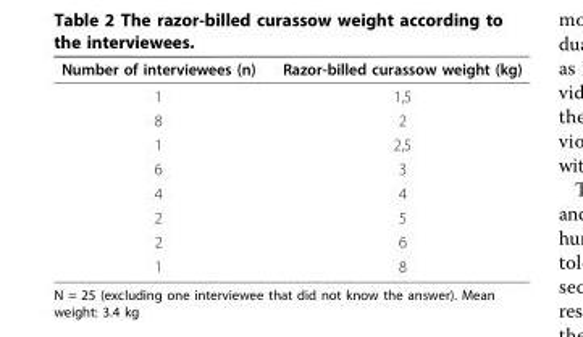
<table><thead><tr><td>Number of interviewees (n)</td><td>Razor-billed curassow weight (kg)</td></tr></thead><tbody><tr><td>1</td><td>1,5</td></tr><tr><td>8</td><td>2</td></tr><tr><td>1</td><td>2,5</td></tr><tr><td>6</td><td>3</td></tr><tr><td>4</td><td>4</td></tr><tr><td>2</td><td>5</td></tr><tr><td>2</td><td>6</td></tr><tr><td>1</td><td>8</td></tr></tbody></table>